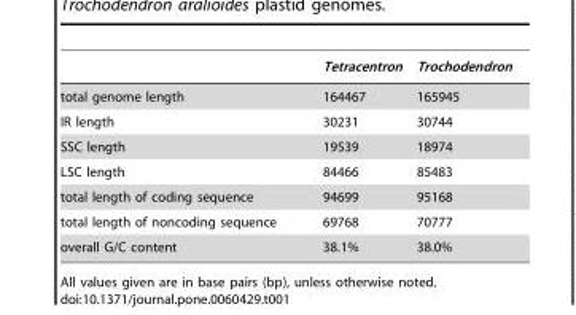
<table><thead><tr><td></td><td>Tetracentron</td><td>Trochodendron</td></tr></thead><tbody><tr><td>total genome length</td><td>164467</td><td>165945</td></tr><tr><td>IR length</td><td>30231</td><td>30744</td></tr><tr><td>SSC length</td><td>19539</td><td>18974</td></tr><tr><td>LSC length</td><td>84466</td><td>85483</td></tr><tr><td>total length of coding sequence</td><td>94699</td><td>95168</td></tr><tr><td>total length of noncoding sequence</td><td>69768</td><td>70777</td></tr><tr><td>overall G/C content</td><td>38.1%</td><td>38.0%</td></tr></tbody></table>